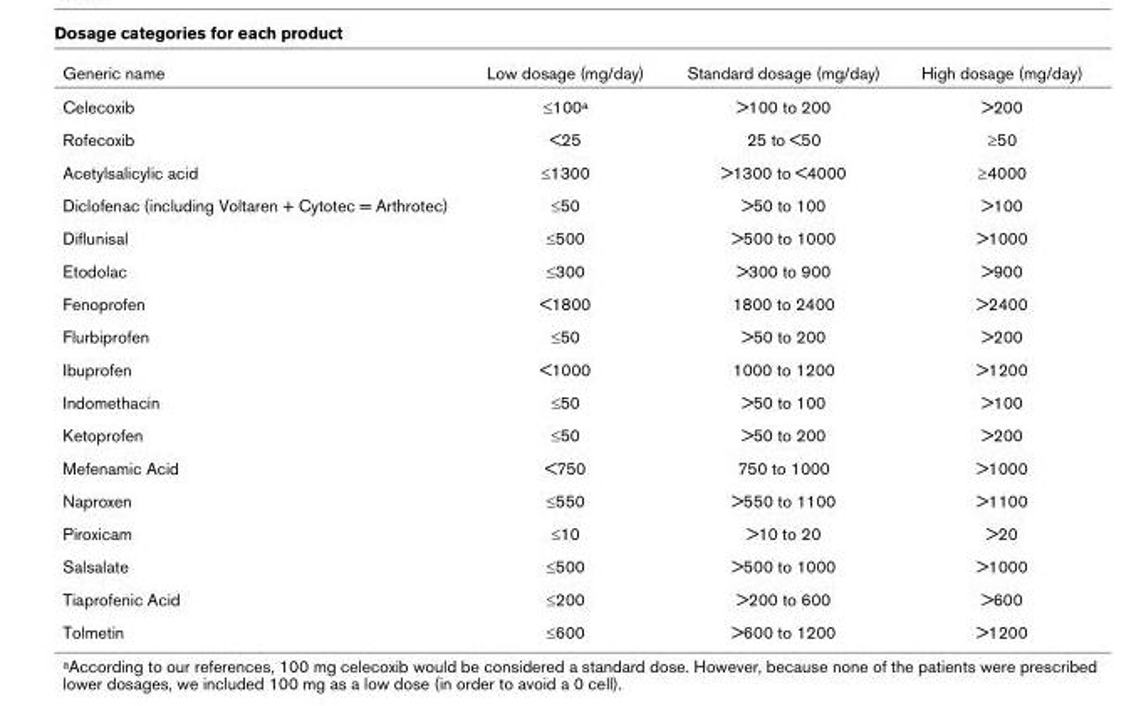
<table><thead><tr><td>Generic name</td><td>Low dosage (mg/day)</td><td>Standard dosage (mg/day)</td><td>High dosage (mg/day)</td></tr></thead><tbody><tr><td>Celecoxib</td><td>≤100a</td><td>&gt;100 to 200</td><td>&gt;200</td></tr><tr><td>Rofecoxib</td><td>&lt;25</td><td>25 to &lt;50</td><td>≥50</td></tr><tr><td>Acetylsalicylic acid</td><td>≤1300</td><td>&gt;1300 to &lt;4000</td><td>≥4000</td></tr><tr><td>Diclofenac (including Voltaren + Cytotec = Arthrotec)</td><td>≤50</td><td>&gt;50 to 100</td><td>&gt;100</td></tr><tr><td>Diflunisal</td><td>≤500</td><td>&gt;500 to 1000</td><td>&gt;1000</td></tr><tr><td>Etodolac</td><td>≤300</td><td>&gt;300 to 900</td><td>&gt;900</td></tr><tr><td>Fenoprofen</td><td>&lt;1800</td><td>1800 to 2400</td><td>&gt;2400</td></tr><tr><td>Flurbiprofen</td><td>≤50</td><td>&gt;50 to 200</td><td>&gt;200</td></tr><tr><td>Ibuprofen</td><td>&lt;1000</td><td>1000 to 1200</td><td>&gt;1200</td></tr><tr><td>Indomethacin</td><td>≤50</td><td>&gt;50 to 100</td><td>&gt;100</td></tr><tr><td>Ketoprofen</td><td>≤50</td><td>&gt;50 to 200</td><td>&gt;200</td></tr><tr><td>Mefenamic Acid</td><td>&lt;750</td><td>750 to 1000</td><td>&gt;1000</td></tr><tr><td>Naproxen</td><td>≤550</td><td>&gt;550 to 1100</td><td>&gt;1100</td></tr><tr><td>Piroxicam</td><td>≤10</td><td>&gt;10 to 20</td><td>&gt;20</td></tr><tr><td>Salsalate</td><td>≤500</td><td>&gt;500 to 1000</td><td>&gt;1000</td></tr><tr><td>Tiaprofenic Acid</td><td>≤200</td><td>&gt;200 to 600</td><td>&gt;600</td></tr><tr><td>Tolmetin</td><td>≤600</td><td>&gt;600 to 1200</td><td>&gt;1200</td></tr></tbody></table>